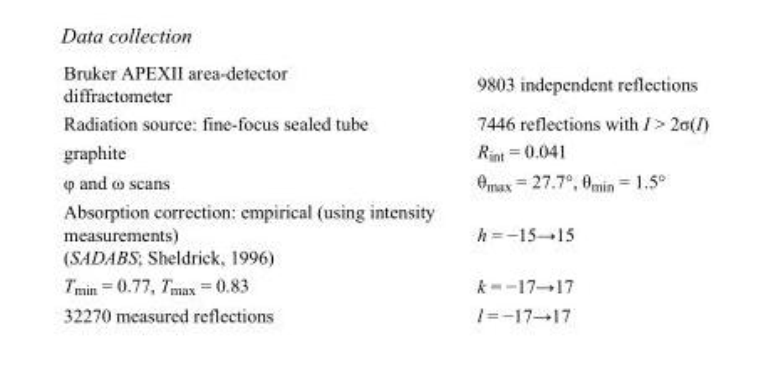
<table><tbody><tr><td>Bruker APEXII area-detector diffractometer</td><td>9803 independent reflections</td></tr><tr><td>Radiation source: fine-focus sealed tube</td><td>7446 reflections with I &gt; 2σ(I)</td></tr><tr><td>graphite</td><td>R<sub>int</sub> = 0.041</td></tr><tr><td>φ and ω scans</td><td>θ<sub>max</sub> = 27.7°, θ<sub>min</sub> = 1.5°</td></tr><tr><td>Absorption correction: empirical (using intensity measurements) (SADABS; Sheldrick, 1996)</td><td>h = −15→15</td></tr><tr><td>T<sub>min</sub> = 0.77, T<sub>max</sub> = 0.83</td><td>k = −17→17</td></tr><tr><td>32270 measured reflections</td><td>l = −17→17</td></tr></tbody></table>